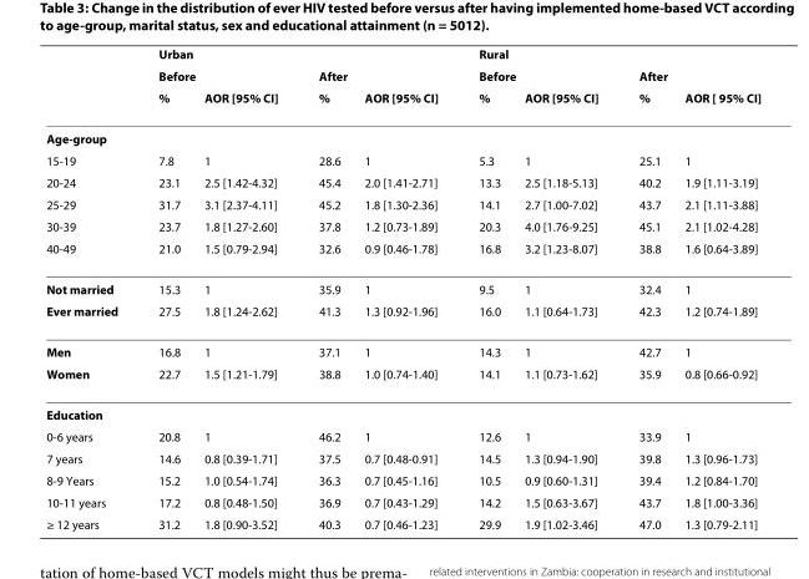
<table><thead><tr><td rowspan="3"></td><td colspan="4">Urban</td><td colspan="4">Rural</td></tr><tr><td colspan="2">Before</td><td colspan="2">After</td><td colspan="2">Before</td><td colspan="2">After</td></tr><tr><td>%</td><td>AOR [95% CI]</td><td>%</td><td>AOR [95% CI]</td><td>%</td><td>AOR [95% CI]</td><td>%</td><td>AOR [ 95% CI]</td></tr></thead><tbody><tr><td colspan="9">Age-group</td></tr><tr><td>15-19</td><td>7.8</td><td>1</td><td>28.6</td><td>1</td><td>5.3</td><td>1</td><td>25.1</td><td>1</td></tr><tr><td>20-24</td><td>23.1</td><td>2.5 [1.42-4.32]</td><td>45.4</td><td>2.0 [1.41-2.71]</td><td>13.3</td><td>2.5 [1.18-5.13]</td><td>40.2</td><td>1.9 [1.11-3.19]</td></tr><tr><td>25-29</td><td>31.7</td><td>3.1 [2.37-4.11]</td><td>45.2</td><td>1.8 [1.30-2.36]</td><td>14.1</td><td>2.7 [1.00-7.02]</td><td>43.7</td><td>2.1 [1.11-3.88]</td></tr><tr><td>30-39</td><td>23.7</td><td>1.8 [1.27-2.60]</td><td>37.8</td><td>1.2 [0.73-1.89]</td><td>20.3</td><td>4.0 [1.76-9.25]</td><td>45.1</td><td>2.1 [1.02-4.28]</td></tr><tr><td>40-49</td><td>21.0</td><td>1.5 [0.79-2.94]</td><td>32.6</td><td>0.9 [0.46-1.78]</td><td>16.8</td><td>3.2 [1.23-8.07]</td><td>38.8</td><td>1.6 [0.64-3.89]</td></tr><tr><td>Not married</td><td>15.3</td><td>1</td><td>35.9</td><td>1</td><td>9.5</td><td>1</td><td>32.4</td><td>1</td></tr><tr><td>Ever married</td><td>27.5</td><td>1.8 [1.24-2.62]</td><td>41.3</td><td>1.3 [0.92-1.96]</td><td>16.0</td><td>1.1 [0.64-1.73]</td><td>42.3</td><td>1.2 [0.74-1.89]</td></tr><tr><td>Men</td><td>16.8</td><td>1</td><td>37.1</td><td>1</td><td>14.3</td><td>1</td><td>42.7</td><td>1</td></tr><tr><td>Women</td><td>22.7</td><td>1.5 [1.21-1.79]</td><td>38.8</td><td>1.0 [0.74-1.40]</td><td>14.1</td><td>1.1 [0.73-1.62]</td><td>35.9</td><td>0.8 [0.66-0.92]</td></tr><tr><td colspan="9">Education</td></tr><tr><td>0-6 years</td><td>20.8</td><td>1</td><td>46.2</td><td>1</td><td>12.6</td><td>1</td><td>33.9</td><td>1</td></tr><tr><td>7 years</td><td>14.6</td><td>0.8 [0.39-1.71]</td><td>37.5</td><td>0.7 [0.48-0.91]</td><td>14.5</td><td>1.3 [0.94-1.90]</td><td>39.8</td><td>1.3 [0.96-1.73]</td></tr><tr><td>8-9 Years</td><td>15.2</td><td>1.0 [0.54-1.74]</td><td>36.3</td><td>0.7 [0.45-1.16]</td><td>10.5</td><td>0.9 [0.60-1.31]</td><td>39.4</td><td>1.2 [0.84-1.70]</td></tr><tr><td>10-11 years</td><td>17.2</td><td>0.8 [0.48-1.50]</td><td>36.9</td><td>0.7 [0.43-1.29]</td><td>14.2</td><td>1.5 [0.63-3.67]</td><td>43.7</td><td>1.8 [1.00-3.36]</td></tr><tr><td>≥ 12 years</td><td>31.2</td><td>1.8 [0.90-3.52]</td><td>40.3</td><td>0.7 [0.46-1.23]</td><td>29.9</td><td>1.9 [1.02-3.46]</td><td>47.0</td><td>1.3 [0.79-2.11]</td></tr></tbody></table>